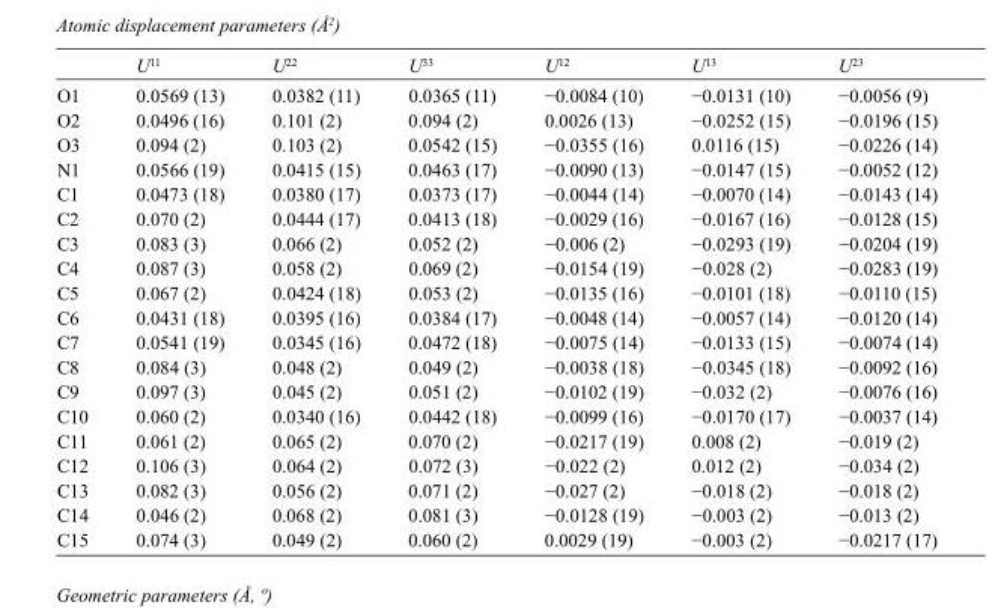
<table><thead><tr><td></td><td>U<sup>11</sup></td><td>U<sup>22</sup></td><td>U<sup>33</sup></td><td>U<sup>12</sup></td><td>U<sup>13</sup></td><td>U<sup>23</sup></td></tr></thead><tbody><tr><td>O1</td><td>0.0569 (13)</td><td>0.0382 (11)</td><td>0.0365 (11)</td><td>−0.0084 (10)</td><td>−0.0131 (10)</td><td>−0.0056 (9)</td></tr><tr><td>O2</td><td>0.0496 (16)</td><td>0.101 (2)</td><td>0.094 (2)</td><td>0.0026 (13)</td><td>−0.0252 (15)</td><td>−0.0196 (15)</td></tr><tr><td>O3</td><td>0.094 (2)</td><td>0.103 (2)</td><td>0.0542 (15)</td><td>−0.0355 (16)</td><td>0.0116 (15)</td><td>−0.0226 (14)</td></tr><tr><td>N1</td><td>0.0566 (19)</td><td>0.0415 (15)</td><td>0.0463 (17)</td><td>−0.0090 (13)</td><td>−0.0147 (15)</td><td>−0.0052 (12)</td></tr><tr><td>C1</td><td>0.0473 (18)</td><td>0.0380 (17)</td><td>0.0373 (17)</td><td>−0.0044 (14)</td><td>−0.0070 (14)</td><td>−0.0143 (14)</td></tr><tr><td>C2</td><td>0.070 (2)</td><td>0.0444 (17)</td><td>0.0413 (18)</td><td>−0.0029 (16)</td><td>−0.0167 (16)</td><td>−0.0128 (15)</td></tr><tr><td>C3</td><td>0.083 (3)</td><td>0.066 (2)</td><td>0.052 (2)</td><td>−0.006 (2)</td><td>−0.0293 (19)</td><td>−0.0204 (19)</td></tr><tr><td>C4</td><td>0.087 (3)</td><td>0.058 (2)</td><td>0.069 (2)</td><td>−0.0154 (19)</td><td>−0.028 (2)</td><td>−0.0283 (19)</td></tr><tr><td>C5</td><td>0.067 (2)</td><td>0.0424 (18)</td><td>0.053 (2)</td><td>−0.0135 (16)</td><td>−0.0101 (18)</td><td>−0.0110 (15)</td></tr><tr><td>C6</td><td>0.0431 (18)</td><td>0.0395 (16)</td><td>0.0384 (17)</td><td>−0.0048 (14)</td><td>−0.0057 (14)</td><td>−0.0120 (14)</td></tr><tr><td>C7</td><td>0.0541 (19)</td><td>0.0345 (16)</td><td>0.0472 (18)</td><td>−0.0075 (14)</td><td>−0.0133 (15)</td><td>−0.0074 (14)</td></tr><tr><td>C8</td><td>0.084 (3)</td><td>0.048 (2)</td><td>0.049 (2)</td><td>−0.0038 (18)</td><td>−0.0345 (18)</td><td>−0.0092 (16)</td></tr><tr><td>C9</td><td>0.097 (3)</td><td>0.045 (2)</td><td>0.051 (2)</td><td>−0.0102 (19)</td><td>−0.032 (2)</td><td>−0.0076 (16)</td></tr><tr><td>C10</td><td>0.060 (2)</td><td>0.0340 (16)</td><td>0.0442 (18)</td><td>−0.0099 (16)</td><td>−0.0170 (17)</td><td>−0.0037 (14)</td></tr><tr><td>C11</td><td>0.061 (2)</td><td>0.065 (2)</td><td>0.070 (2)</td><td>−0.0217 (19)</td><td>0.008 (2)</td><td>−0.019 (2)</td></tr><tr><td>C12</td><td>0.106 (3)</td><td>0.064 (2)</td><td>0.072 (3)</td><td>−0.022 (2)</td><td>0.012 (2)</td><td>−0.034 (2)</td></tr><tr><td>C13</td><td>0.082 (3)</td><td>0.056 (2)</td><td>0.071 (2)</td><td>−0.027 (2)</td><td>−0.018 (2)</td><td>−0.018 (2)</td></tr><tr><td>C14</td><td>0.046 (2)</td><td>0.068 (2)</td><td>0.081 (3)</td><td>−0.0128 (19)</td><td>−0.003 (2)</td><td>−0.013 (2)</td></tr><tr><td>C15</td><td>0.074 (3)</td><td>0.049 (2)</td><td>0.060 (2)</td><td>0.0029 (19)</td><td>−0.003 (2)</td><td>−0.0217 (17)</td></tr></tbody></table>